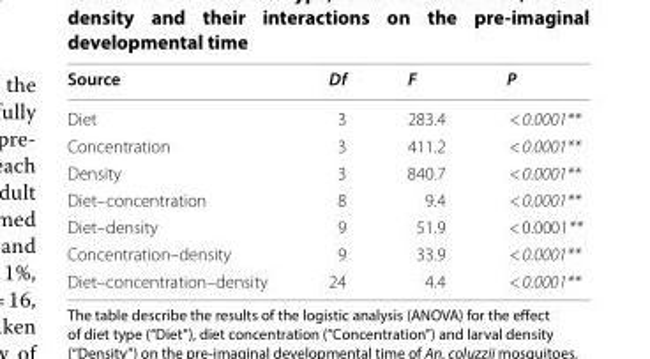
<table><thead><tr><td>Source</td><td>Df</td><td>F</td><td>P</td></tr></thead><tbody><tr><td>Diet</td><td>3</td><td>283.4</td><td>&lt; 0.0001**</td></tr><tr><td>Concentration</td><td>3</td><td>411.2</td><td>&lt; 0.0001**</td></tr><tr><td>Density</td><td>3</td><td>840.7</td><td>&lt; 0.0001**</td></tr><tr><td>Diet–concentration</td><td>8</td><td>9.4</td><td>&lt; 0.0001**</td></tr><tr><td>Diet–density</td><td>9</td><td>51.9</td><td>&lt; 0.0001**</td></tr><tr><td>Concentration–density</td><td>9</td><td>33.9</td><td>&lt; 0.0001**</td></tr><tr><td>Diet–concentration–density</td><td>24</td><td>4.4</td><td>&lt; 0.0001**</td></tr></tbody></table>